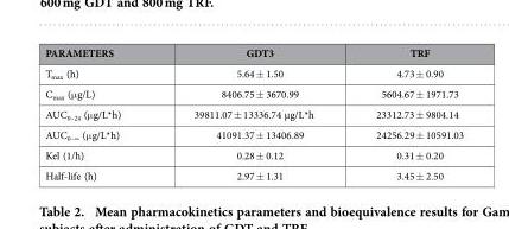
<table><thead><tr><td>PARAMETERS</td><td>GDT3</td><td>TRF</td></tr></thead><tbody><tr><td>T<sub>max</sub> (h)</td><td>5.64 ± 1.50</td><td>4.73 ± 0.90</td></tr><tr><td>C<sub>max</sub> (μ g/L)</td><td>8406.75 ± 3670.99</td><td>5604.67 ± 1971.73</td></tr><tr><td>AUC<sub>0–24</sub> (μ g/L*h)</td><td>39811.07 ± 13336.74 μg/L*h</td><td>23312.73 ± 9804.14</td></tr><tr><td>AUC<sub>0–∞</sub> (μ g/L*h)</td><td>41091.37 ± 13406.89</td><td>24256.29 ± 10591.03</td></tr><tr><td>Kel (1/h)</td><td>0.28 ± 0.12</td><td>0.31 ± 0.20</td></tr><tr><td>Half-life (h)</td><td>2.97 ± 1.31</td><td>3.45 ± 2.50</td></tr></tbody></table>